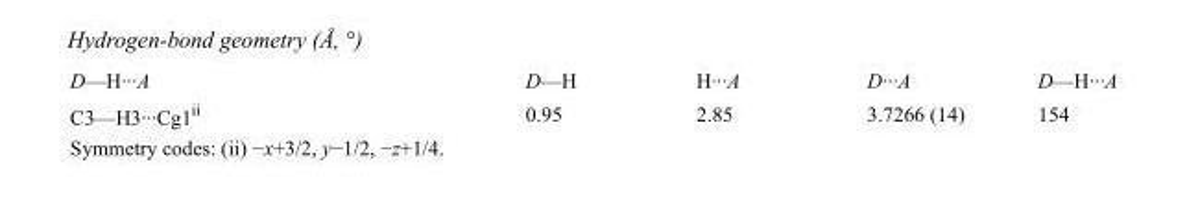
<table><tbody><tr><td>D—H···A</td><td>D—H</td><td>H···A</td><td>D···A</td><td>D—H···A</td></tr><tr><td>C3—H3···Cg1<sup>ii</sup></td><td>0.95</td><td>2.85</td><td>3.7266 (14)</td><td>154</td></tr></tbody></table>